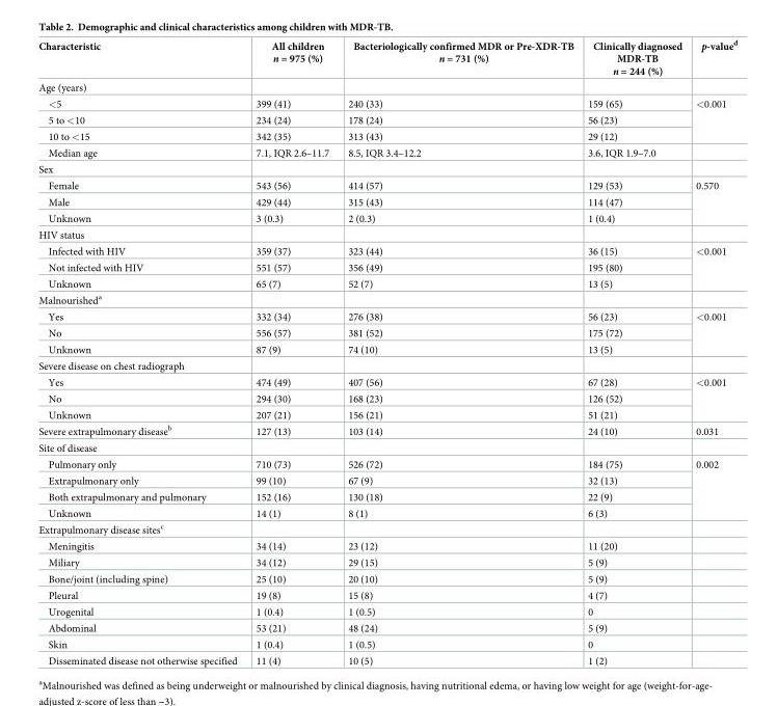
<table><thead><tr><td>Characteristic</td><td>All children n = 975 (%)</td><td>Bacteriologically confirmed MDR or Pre-XDR-TB n = 731 (%)</td><td>Clinically diagnosed MDR-TB n = 244 (%)</td><td>p-value<sup>d</sup></td></tr></thead><tbody><tr><td colspan="5">Age (years)</td></tr><tr><td>&lt;5</td><td>399 (41)</td><td>240 (33)</td><td>159 (65)</td><td rowspan="3">&lt;0.001</td></tr><tr><td>5 to &lt;10</td><td>234 (24)</td><td>178 (24)</td><td>56 (23)</td></tr><tr><td>10 to &lt;15</td><td>342 (35)</td><td>313 (43)</td><td>29 (12)</td></tr><tr><td>Median age</td><td>7.1, IQR 2.6–11.7</td><td>8.5, IQR 3.4–12.2</td><td>3.6, IQR 1.9–7.0</td><td></td></tr><tr><td colspan="5">Sex</td></tr><tr><td>Female</td><td>543 (56)</td><td>414 (57)</td><td>129 (53)</td><td rowspan="3">0.570</td></tr><tr><td>Male</td><td>429 (44)</td><td>315 (43)</td><td>114 (47)</td></tr><tr><td>Unknown</td><td>3 (0.3)</td><td>2 (0.3)</td><td>1 (0.4)</td></tr><tr><td colspan="5">HIV status</td></tr><tr><td>Infected with HIV</td><td>359 (37)</td><td>323 (44)</td><td>36 (15)</td><td rowspan="3">&lt;0.001</td></tr><tr><td>Not infected with HIV</td><td>551 (57)</td><td>356 (49)</td><td>195 (80)</td></tr><tr><td>Unknown</td><td>65 (7)</td><td>52 (7)</td><td>13 (5)</td></tr><tr><td colspan="5">Malnourished<sup>a</sup></td></tr><tr><td>Yes</td><td>332 (34)</td><td>276 (38)</td><td>56 (23)</td><td rowspan="3">&lt;0.001</td></tr><tr><td>No</td><td>556 (57)</td><td>381 (52)</td><td>175 (72)</td></tr><tr><td>Unknown</td><td>87 (9)</td><td>74 (10)</td><td>13 (5)</td></tr><tr><td colspan="5">Severe disease on chest radiograph</td></tr><tr><td>Yes</td><td>474 (49)</td><td>407 (56)</td><td>67 (28)</td><td rowspan="3">&lt;0.001</td></tr><tr><td>No</td><td>294 (30)</td><td>168 (23)</td><td>126 (52)</td></tr><tr><td>Unknown</td><td>207 (21)</td><td>156 (21)</td><td>51 (21)</td></tr><tr><td>Severe extrapulmonary disease<sup>b</sup></td><td>127 (13)</td><td>103 (14)</td><td>24 (10)</td><td>0.031</td></tr><tr><td colspan="5">Site of disease</td></tr><tr><td>Pulmonary only</td><td>710 (73)</td><td>526 (72)</td><td>184 (75)</td><td rowspan="4">0.002</td></tr><tr><td>Extrapulmonary only</td><td>99 (10)</td><td>67 (9)</td><td>32 (13)</td></tr><tr><td>Both extrapulmonary and pulmonary</td><td>152 (16)</td><td>130 (18)</td><td>22 (9)</td></tr><tr><td>Unknown</td><td>14 (1)</td><td>8 (1)</td><td>6 (3)</td></tr><tr><td colspan="5">Extrapulmonary disease sites<sup>c</sup></td></tr><tr><td>Meningitis</td><td>34 (14)</td><td>23 (12)</td><td>11 (20)</td><td></td></tr><tr><td>Miliary</td><td>34 (12)</td><td>29 (15)</td><td>5 (9)</td><td></td></tr><tr><td>Bone/joint (including spine)</td><td>25 (10)</td><td>20 (10)</td><td>5 (9)</td><td></td></tr><tr><td>Pleural</td><td>19 (8)</td><td>15 (8)</td><td>4 (7)</td><td></td></tr><tr><td>Urogenital</td><td>1 (0.4)</td><td>1 (0.5)</td><td>0</td><td></td></tr><tr><td>Abdominal</td><td>53 (21)</td><td>48 (24)</td><td>5 (9)</td><td></td></tr><tr><td>Skin</td><td>1 (0.4)</td><td>1 (0.5)</td><td>0</td><td></td></tr><tr><td>Disseminated disease not otherwise specified</td><td>11 (4)</td><td>10 (5)</td><td>1 (2)</td><td></td></tr></tbody></table>